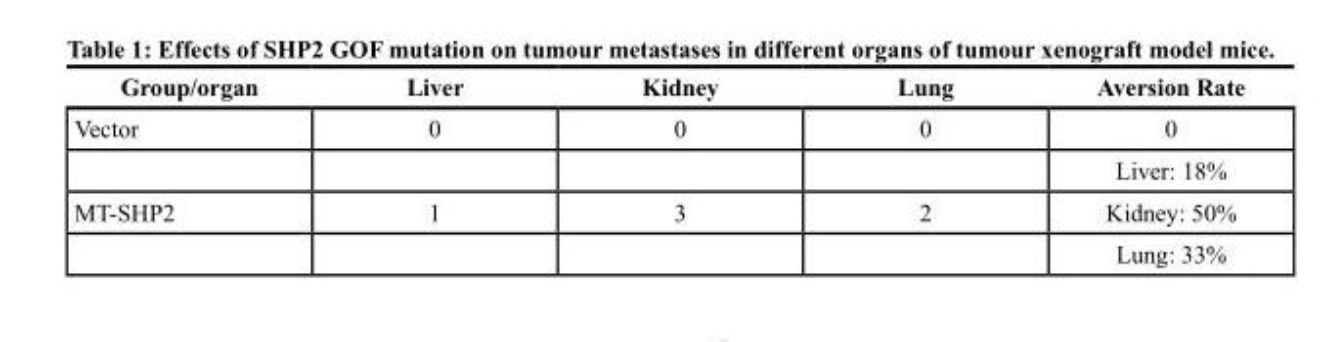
<table><thead><tr><td>Group/organ</td><td>Liver</td><td>Kidney</td><td>Lung</td><td>Aversion Rate</td></tr></thead><tbody><tr><td rowspan="2">Vector</td><td>0</td><td>0</td><td>0</td><td>0</td></tr><tr><td></td><td></td><td></td><td>Liver: 18%</td></tr><tr><td rowspan="2">MT-SHP2</td><td>1</td><td>3</td><td>2</td><td>Kidney: 50%</td></tr><tr><td></td><td></td><td></td><td>Lung: 33%</td></tr></tbody></table>